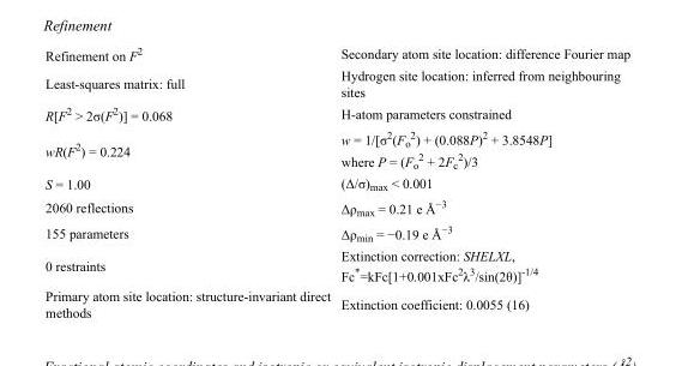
<table><tbody><tr><td>Refinement on F<sup>2</sup></td><td>Secondary atom site location: difference Fourier map</td></tr><tr><td>Least-squares matrix: full</td><td>Hydrogen site location: inferred from neighbouring sites</td></tr><tr><td>R[F<sup>2</sup> &gt; 2σ(F<sup>2</sup>)] = 0.068</td><td>H-atom parameters constrained</td></tr><tr><td>wR(F<sup>2</sup>) = 0.224</td><td>w = 1/[σ<sup>2</sup>(F<sub>o</sub> <sup>2</sup>) + (0.088P)<sup>2</sup> + 3.8548P] where P = (F<sub>o</sub> <sup>2</sup> + 2F<sub>c</sub> <sup>2</sup>)/3</td></tr><tr><td>S = 1.00</td><td>(Δ/σ)<sub>max</sub> &lt; 0.001</td></tr><tr><td>2060 reflections</td><td>Δρ<sub>max</sub> = 0.21 e Å<sup>−3</sup></td></tr><tr><td>155 parameters</td><td>Δρ<sub>min</sub> = −0.19 e Å<sup>−3</sup></td></tr><tr><td>0 restraints</td><td>Extinction correction: SHELXL, Fc*=kFc[1+0.001xFc<sup>2</sup>λ<sup>3</sup>/sin(2θ)]<sup>-1/4</sup></td></tr><tr><td>Primary atom site location: structure-invariant direct methods</td><td>Extinction coefficient: 0.0055 (16)</td></tr></tbody></table>